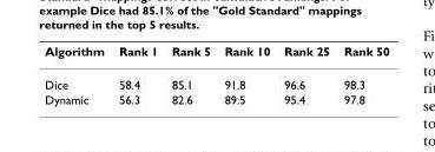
<table><thead><tr><td>Algorithm</td><td>Rank 1</td><td>Rank 5</td><td>Rank 10</td><td>Rank 25</td><td>Rank 50</td></tr></thead><tbody><tr><td>Dice</td><td>58.4</td><td>85.1</td><td>91.8</td><td>96.6</td><td>98.3</td></tr><tr><td>Dynamic</td><td>56.3</td><td>82.6</td><td>89.5</td><td>95.4</td><td>97.8</td></tr></tbody></table>